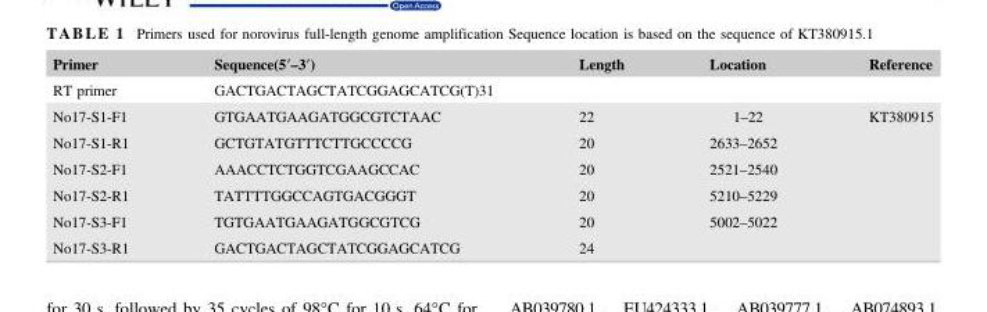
<table><thead><tr><td>Primer</td><td>Sequence(5′–3′)</td><td>Length</td><td>Location</td><td>Reference</td></tr></thead><tbody><tr><td>RT primer</td><td>GACTGACTAGCTATCGGAGCATCG(T)31</td><td></td><td></td><td></td></tr><tr><td>No17‐S1‐F1</td><td>GTGAATGAAGATGGCGTCTAAC</td><td>22</td><td>1–22</td><td rowspan="6">KT380915</td></tr><tr><td>No17‐S1‐R1</td><td>GCTGTATGTTTCTTGCCCCG</td><td>20</td><td>2633–2652</td></tr><tr><td>No17‐S2‐F1</td><td>AAACCTCTGGTCGAAGCCAC</td><td>20</td><td>2521–2540</td></tr><tr><td>No17‐S2‐R1</td><td>TATTTTGGCCAGTGACGGGT</td><td>20</td><td>5210–5229</td></tr><tr><td>No17‐S3‐F1</td><td>TGTGAATGAAGATGGCGTCG</td><td>20</td><td>5002–5022</td></tr><tr><td>No17‐S3‐R1</td><td>GACTGACTAGCTATCGGAGCATCG</td><td>24</td><td></td></tr></tbody></table>